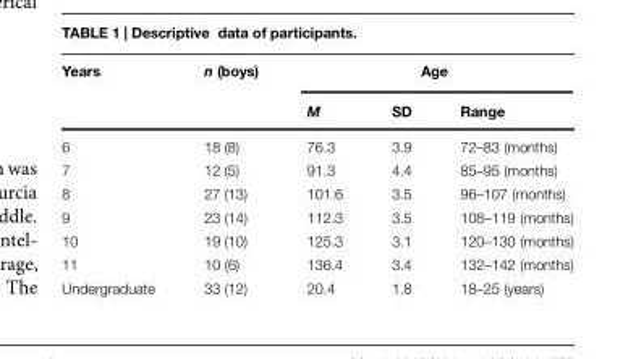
<table><thead><tr><td rowspan="2">Years</td><td rowspan="2">n (boys)</td><td colspan="3">Age</td></tr><tr><td>M</td><td>SD</td><td>Range</td></tr></thead><tbody><tr><td>6</td><td>18 (8)</td><td>76.3</td><td>3.9</td><td>72–83 (months)</td></tr><tr><td>7</td><td>12 (5)</td><td>91.3</td><td>4.4</td><td>85–95 (months)</td></tr><tr><td>8</td><td>27 (13)</td><td>101.6</td><td>3.5</td><td>96–107 (months)</td></tr><tr><td>9</td><td>23 (14)</td><td>112.3</td><td>3.5</td><td>108–119 (months)</td></tr><tr><td>10</td><td>19 (10)</td><td>125.3</td><td>3.1</td><td>120–130 (months)</td></tr><tr><td>11</td><td>10 (6)</td><td>136.4</td><td>3.4</td><td>132–142 (months)</td></tr><tr><td>Undergraduate</td><td>33 (12)</td><td>20.4</td><td>1.8</td><td>18–25 (years)</td></tr></tbody></table>